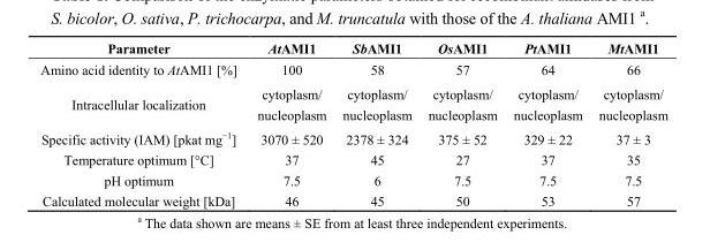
<table><thead><tr><td>Parameter</td><td>AtAMI1</td><td>SbAMI1</td><td>OsAMI1</td><td>PtAMI1</td><td>MtAMI1</td></tr></thead><tbody><tr><td>Amino acid identity to AtAMI1 [%]</td><td>100</td><td>58</td><td>57</td><td>64</td><td>66</td></tr><tr><td>Intracellular localization</td><td>cytoplasm/ nucleoplasm</td><td>cytoplasm/ nucleoplasm</td><td>cytoplasm/ nucleoplasm</td><td>cytoplasm/ nucleoplasm</td><td>cytoplasm/ nucleoplasm</td></tr><tr><td>Specific activity (IAM) [pkat mg<sup>−1</sup>]</td><td>3070 ± 520</td><td>2378 ± 324</td><td>375 ± 52</td><td>329 ± 22</td><td>37 ± 3</td></tr><tr><td>Temperature optimum [°C]</td><td>37</td><td>45</td><td>27</td><td>37</td><td>35</td></tr><tr><td>pH optimum</td><td>7.5</td><td>6</td><td>7.5</td><td>7.5</td><td>7.5</td></tr><tr><td>Calculated molecular weight [kDa]</td><td>46</td><td>45</td><td>50</td><td>53</td><td>57</td></tr></tbody></table>